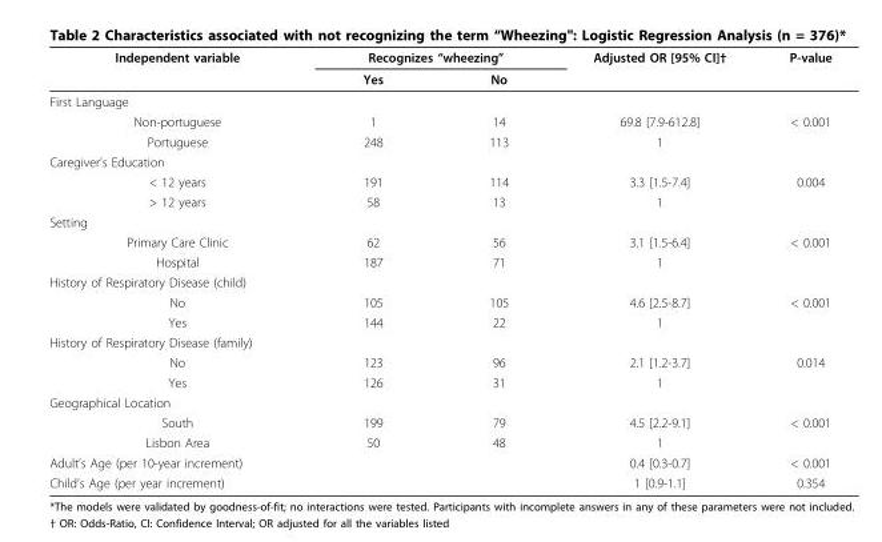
<table><thead><tr><td rowspan="2">Independent variable</td><td colspan="2">Recognizes “wheezing”</td><td rowspan="2">Adjusted OR [95% CI]†</td><td rowspan="2">P-value</td></tr><tr><td>Yes</td><td>No</td></tr></thead><tbody><tr><td colspan="5">First Language</td></tr><tr><td>Non-portuguese</td><td>1</td><td>14</td><td>69.8 [7.9-612.8]</td><td>&lt; 0.001</td></tr><tr><td>Portuguese</td><td>248</td><td>113</td><td>1</td><td></td></tr><tr><td colspan="5">Caregiver’s Education</td></tr><tr><td>&lt; 12 years</td><td>191</td><td>114</td><td>3.3 [1.5-7.4]</td><td>0.004</td></tr><tr><td>&gt; 12 years</td><td>58</td><td>13</td><td>1</td><td></td></tr><tr><td colspan="5">Setting</td></tr><tr><td>Primary Care Clinic</td><td>62</td><td>56</td><td>3.1 [1.5-6.4]</td><td>&lt; 0.001</td></tr><tr><td>Hospital</td><td>187</td><td>71</td><td>1</td><td></td></tr><tr><td colspan="5">History of Respiratory Disease (child)</td></tr><tr><td>No</td><td>105</td><td>105</td><td>4.6 [2.5-8.7]</td><td>&lt; 0.001</td></tr><tr><td>Yes</td><td>144</td><td>22</td><td>1</td><td></td></tr><tr><td colspan="5">History of Respiratory Disease (family)</td></tr><tr><td>No</td><td>123</td><td>96</td><td>2.1 [1.2-3.7]</td><td>0.014</td></tr><tr><td>Yes</td><td>126</td><td>31</td><td>1</td><td></td></tr><tr><td colspan="5">Geographical Location</td></tr><tr><td>South</td><td>199</td><td>79</td><td>4.5 [2.2-9.1]</td><td>&lt; 0.001</td></tr><tr><td>Lisbon Area</td><td>50</td><td>48</td><td>1</td><td></td></tr><tr><td>Adult’s Age (per 10-year increment)</td><td></td><td></td><td>0.4 [0.3-0.7]</td><td>&lt; 0.001</td></tr><tr><td>Child’s Age (per year increment)</td><td></td><td></td><td>1 [0.9-1.1]</td><td>0.354</td></tr></tbody></table>